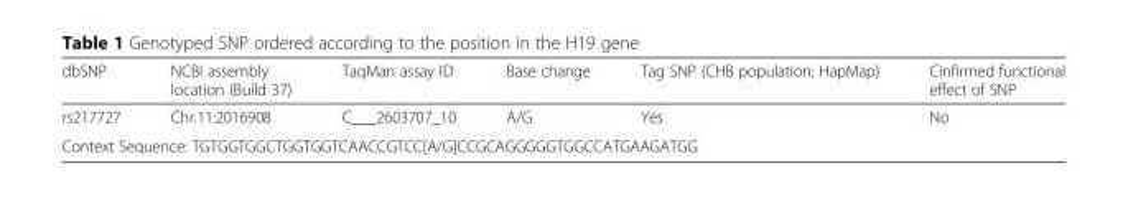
<table><thead><tr><td>dbSNP</td><td>NCBI assembly location (Build 37)</td><td>TaqMan assay ID</td><td>Base change</td><td>Tag SNP (CHB population; HapMap)</td><td>Cinfirmed functional effect of SNP</td></tr></thead><tbody><tr><td>rs217727</td><td>Chr.11:2016908</td><td>C___2603707_10</td><td>A/G</td><td>Yes</td><td>No</td></tr><tr><td colspan="6">Context Sequence: TGTGGTGGCTGGTGGTCAACCGTCC[A/G]CCGCAGGGGGTGGCCATGAAGATGG</td></tr></tbody></table>